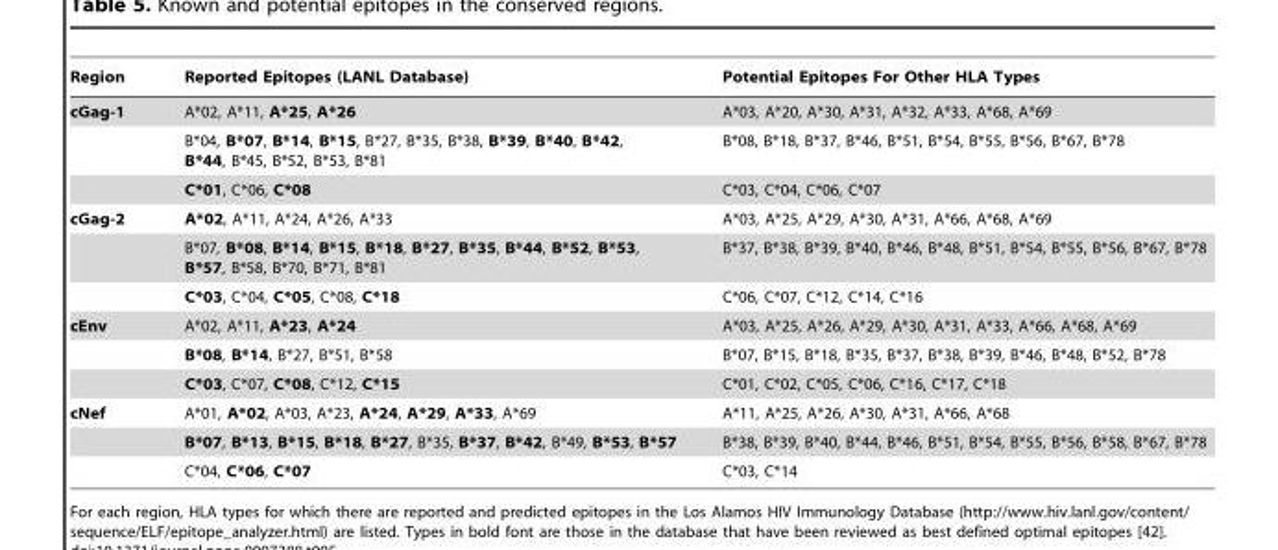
<table><thead><tr><td>Region</td><td>Reported Epitopes (LANL Database)</td><td>Potential Epitopes For Other HLA Types</td></tr></thead><tbody><tr><td rowspan="3">cGag-1</td><td>A*02, A*11, A*25, A*26</td><td>A*03, A*20, A*30, A*31, A*32, A*33, A*68, A*69</td></tr><tr><td>B*04, B*07, B*14, B*15, B*27, B*35, B*38, B*39, B*40, B*42, B*44, B*45, B*52, B*53, B*81</td><td>B*08, B*18, B*37, B*46, B*51, B*54, B*55, B*56, B*67, B*78</td></tr><tr><td>C*01, C*06, C*08</td><td>C*03, C*04, C*06, C*07</td></tr><tr><td rowspan="3">cGag-2</td><td>A*02, A*11, A*24, A*26, A*33</td><td>A*03, A*25, A*29, A*30, A*31, A*66, A*68, A*69</td></tr><tr><td>B*07, B*08, B*14, B*15, B*18, B*27, B*35, B*44, B*52, B*53, B*57, B*58, B*70, B*71, B*81</td><td>B*37, B*38, B*39, B*40, B*46, B*48, B*51, B*54, B*55, B*56, B*67, B*78</td></tr><tr><td>C*03, C*04, C*05, C*08, C*18</td><td>C*06, C*07, C*12, C*14, C*16</td></tr><tr><td rowspan="3">cEnv</td><td>A*02, A*11, A*23, A*24</td><td>A*03, A*25, A*26, A*29, A*30, A*31, A*33, A*66, A*68, A*69</td></tr><tr><td>B*08, B*14, B*27, B*51, B*58</td><td>B*07, B*15, B*18, B*35, B*37, B*38, B*39, B*46, B*48, B*52, B*78</td></tr><tr><td>C*03, C*07, C*08, C*12, C*15</td><td>C*01, C*02, C*05, C*06, C*16, C*17, C*18</td></tr><tr><td rowspan="3">cNef</td><td>A*01, A*02, A*03, A*23, A*24, A*29, A*33, A*69</td><td>A*11, A*25, A*26, A*30, A*31, A*66, A*68</td></tr><tr><td>B*07, B*13, B*15, B*18, B*27, B*35, B*37, B*42, B*49, B*53, B*57</td><td>B*38, B*39, B*40, B*44, B*46, B*51, B*54, B*55, B*56, B*58, B*67, B*78</td></tr><tr><td>C*04, C*06, C*07</td><td>C*03, C*14</td></tr></tbody></table>